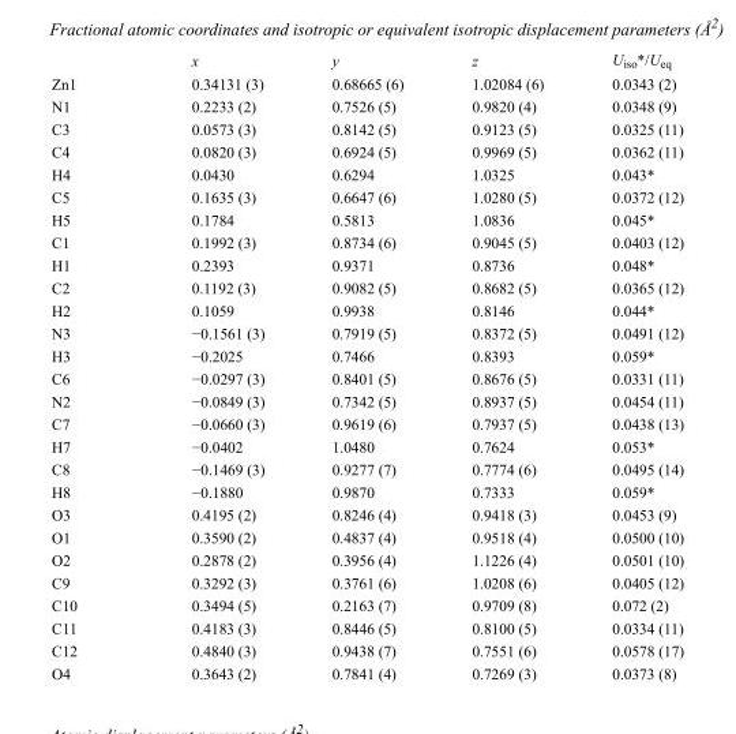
<table><thead><tr><td></td><td>x</td><td>y</td><td>z</td><td>U<sub>iso</sub>*/U<sub>eq</sub></td></tr></thead><tbody><tr><td>Zn1</td><td>0.34131 (3)</td><td>0.68665 (6)</td><td>1.02084 (6)</td><td>0.0343 (2)</td></tr><tr><td>N1</td><td>0.2233 (2)</td><td>0.7526 (5)</td><td>0.9820 (4)</td><td>0.0348 (9)</td></tr><tr><td>C3</td><td>0.0573 (3)</td><td>0.8142 (5)</td><td>0.9123 (5)</td><td>0.0325 (11)</td></tr><tr><td>C4</td><td>0.0820 (3)</td><td>0.6924 (5)</td><td>0.9969 (5)</td><td>0.0362 (11)</td></tr><tr><td>H4</td><td>0.0430</td><td>0.6294</td><td>1.0325</td><td>0.043*</td></tr><tr><td>C5</td><td>0.1635 (3)</td><td>0.6647 (6)</td><td>1.0280 (5)</td><td>0.0372 (12)</td></tr><tr><td>H5</td><td>0.1784</td><td>0.5813</td><td>1.0836</td><td>0.045*</td></tr><tr><td>C1</td><td>0.1992 (3)</td><td>0.8734 (6)</td><td>0.9045 (5)</td><td>0.0403 (12)</td></tr><tr><td>H1</td><td>0.2393</td><td>0.9371</td><td>0.8736</td><td>0.048*</td></tr><tr><td>C2</td><td>0.1192 (3)</td><td>0.9082 (5)</td><td>0.8682 (5)</td><td>0.0365 (12)</td></tr><tr><td>H2</td><td>0.1059</td><td>0.9938</td><td>0.8146</td><td>0.044*</td></tr><tr><td>N3</td><td>−0.1561 (3)</td><td>0.7919 (5)</td><td>0.8372 (5)</td><td>0.0491 (12)</td></tr><tr><td>H3</td><td>−0.2025</td><td>0.7466</td><td>0.8393</td><td>0.059*</td></tr><tr><td>C6</td><td>−0.0297 (3)</td><td>0.8401 (5)</td><td>0.8676 (5)</td><td>0.0331 (11)</td></tr><tr><td>N2</td><td>−0.0849 (3)</td><td>0.7342 (5)</td><td>0.8937 (5)</td><td>0.0454 (11)</td></tr><tr><td>C7</td><td>−0.0660 (3)</td><td>0.9619 (6)</td><td>0.7937 (5)</td><td>0.0438 (13)</td></tr><tr><td>H7</td><td>−0.0402</td><td>1.0480</td><td>0.7624</td><td>0.053*</td></tr><tr><td>C8</td><td>−0.1469 (3)</td><td>0.9277 (7)</td><td>0.7774 (6)</td><td>0.0495 (14)</td></tr><tr><td>H8</td><td>−0.1880</td><td>0.9870</td><td>0.7333</td><td>0.059*</td></tr><tr><td>O3</td><td>0.4195 (2)</td><td>0.8246 (4)</td><td>0.9418 (3)</td><td>0.0453 (9)</td></tr><tr><td>O1</td><td>0.3590 (2)</td><td>0.4837 (4)</td><td>0.9518 (4)</td><td>0.0500 (10)</td></tr><tr><td>O2</td><td>0.2878 (2)</td><td>0.3956 (4)</td><td>1.1226 (4)</td><td>0.0501 (10)</td></tr><tr><td>C9</td><td>0.3292 (3)</td><td>0.3761 (6)</td><td>1.0208 (6)</td><td>0.0405 (12)</td></tr><tr><td>C10</td><td>0.3494 (5)</td><td>0.2163 (7)</td><td>0.9709 (8)</td><td>0.072 (2)</td></tr><tr><td>C11</td><td>0.4183 (3)</td><td>0.8446 (5)</td><td>0.8100 (5)</td><td>0.0334 (11)</td></tr><tr><td>C12</td><td>0.4840 (3)</td><td>0.9438 (7)</td><td>0.7551 (6)</td><td>0.0578 (17)</td></tr><tr><td>O4</td><td>0.3643 (2)</td><td>0.7841 (4)</td><td>0.7269 (3)</td><td>0.0373 (8)</td></tr></tbody></table>